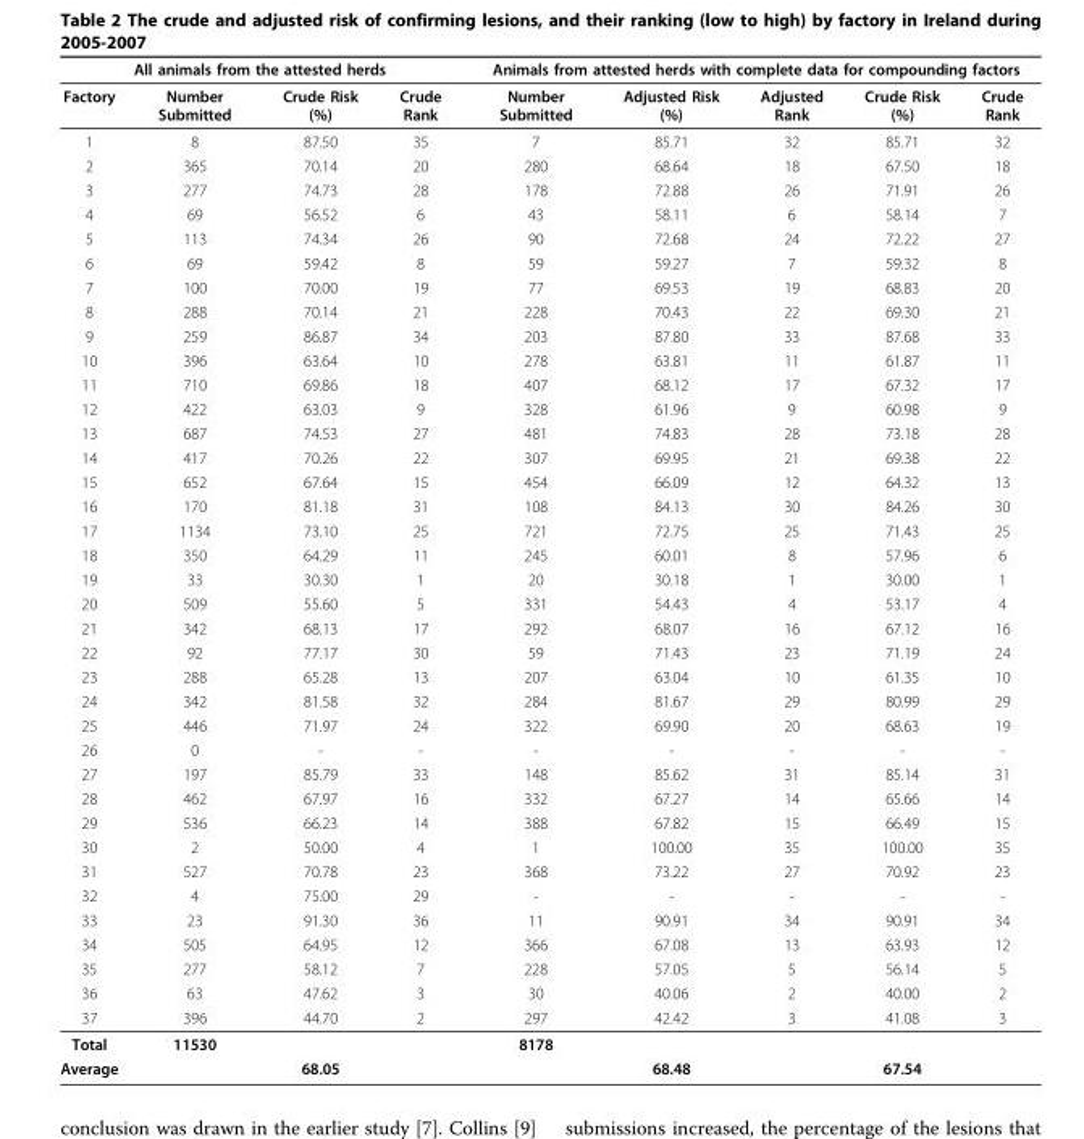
<table><thead><tr><td colspan="4">All animals from the attested herds</td><td colspan="5">Animals from attested herds with complete data for compounding factors</td></tr><tr><td>Factory</td><td>Number Submitted</td><td>Crude Risk (%)</td><td>Crude Rank</td><td>Number Submitted</td><td>Adjusted Risk (%)</td><td>Adjusted Rank</td><td>Crude Risk (%)</td><td>Crude Rank</td></tr></thead><tbody><tr><td>1</td><td>8</td><td>87.50</td><td>35</td><td>7</td><td>85.71</td><td>32</td><td>85.71</td><td>32</td></tr><tr><td>2</td><td>365</td><td>70.14</td><td>20</td><td>280</td><td>68.64</td><td>18</td><td>67.50</td><td>18</td></tr><tr><td>3</td><td>277</td><td>74.73</td><td>28</td><td>178</td><td>72.88</td><td>26</td><td>71.91</td><td>26</td></tr><tr><td>4</td><td>69</td><td>56.52</td><td>6</td><td>43</td><td>58.11</td><td>6</td><td>58.14</td><td>7</td></tr><tr><td>5</td><td>113</td><td>74.34</td><td>26</td><td>90</td><td>72.68</td><td>24</td><td>72.22</td><td>27</td></tr><tr><td>6</td><td>69</td><td>59.42</td><td>8</td><td>59</td><td>59.27</td><td>7</td><td>59.32</td><td>8</td></tr><tr><td>7</td><td>100</td><td>70.00</td><td>19</td><td>77</td><td>69.53</td><td>19</td><td>68.83</td><td>20</td></tr><tr><td>8</td><td>288</td><td>70.14</td><td>21</td><td>228</td><td>70.43</td><td>22</td><td>69.30</td><td>21</td></tr><tr><td>9</td><td>259</td><td>86.87</td><td>34</td><td>203</td><td>87.80</td><td>33</td><td>87.68</td><td>33</td></tr><tr><td>10</td><td>396</td><td>63.64</td><td>10</td><td>278</td><td>63.81</td><td>11</td><td>61.87</td><td>11</td></tr><tr><td>11</td><td>710</td><td>69.86</td><td>18</td><td>407</td><td>68.12</td><td>17</td><td>67.32</td><td>17</td></tr><tr><td>12</td><td>422</td><td>63.03</td><td>9</td><td>328</td><td>61.96</td><td>9</td><td>60.98</td><td>9</td></tr><tr><td>13</td><td>687</td><td>74.53</td><td>27</td><td>481</td><td>74.83</td><td>28</td><td>73.18</td><td>28</td></tr><tr><td>14</td><td>417</td><td>70.26</td><td>22</td><td>307</td><td>69.95</td><td>21</td><td>69.38</td><td>22</td></tr><tr><td>15</td><td>652</td><td>67.64</td><td>15</td><td>454</td><td>66.09</td><td>12</td><td>64.32</td><td>13</td></tr><tr><td>16</td><td>170</td><td>81.18</td><td>31</td><td>108</td><td>84.13</td><td>30</td><td>84.26</td><td>30</td></tr><tr><td>17</td><td>1134</td><td>73.10</td><td>25</td><td>721</td><td>72.75</td><td>25</td><td>71.43</td><td>25</td></tr><tr><td>18</td><td>350</td><td>64.29</td><td>11</td><td>245</td><td>60.01</td><td>8</td><td>57.96</td><td>6</td></tr><tr><td>19</td><td>33</td><td>30.30</td><td>1</td><td>20</td><td>30.18</td><td>1</td><td>30.00</td><td>1</td></tr><tr><td>20</td><td>509</td><td>55.60</td><td>5</td><td>331</td><td>54.43</td><td>4</td><td>53.17</td><td>4</td></tr><tr><td>21</td><td>342</td><td>68.13</td><td>17</td><td>292</td><td>68.07</td><td>16</td><td>67.12</td><td>16</td></tr><tr><td>22</td><td>92</td><td>77.17</td><td>30</td><td>59</td><td>71.43</td><td>23</td><td>71.19</td><td>24</td></tr><tr><td>23</td><td>288</td><td>65.28</td><td>13</td><td>207</td><td>63.04</td><td>10</td><td>61.35</td><td>10</td></tr><tr><td>24</td><td>342</td><td>81.58</td><td>32</td><td>284</td><td>81.67</td><td>29</td><td>80.99</td><td>29</td></tr><tr><td>25</td><td>446</td><td>71.97</td><td>24</td><td>322</td><td>69.90</td><td>20</td><td>68.63</td><td>19</td></tr><tr><td>26</td><td>0</td><td>-</td><td>-</td><td>-</td><td>-</td><td>-</td><td>-</td><td>-</td></tr><tr><td>27</td><td>197</td><td>85.79</td><td>33</td><td>148</td><td>85.62</td><td>31</td><td>85.14</td><td>31</td></tr><tr><td>28</td><td>462</td><td>67.97</td><td>16</td><td>332</td><td>67.27</td><td>14</td><td>65.66</td><td>14</td></tr><tr><td>29</td><td>536</td><td>66.23</td><td>14</td><td>388</td><td>67.82</td><td>15</td><td>66.49</td><td>15</td></tr><tr><td>30</td><td>2</td><td>50.00</td><td>4</td><td>1</td><td>100.00</td><td>35</td><td>100.00</td><td>35</td></tr><tr><td>31</td><td>527</td><td>70.78</td><td>23</td><td>368</td><td>73.22</td><td>27</td><td>70.92</td><td>23</td></tr><tr><td>32</td><td>4</td><td>75.00</td><td>29</td><td>-</td><td>-</td><td>-</td><td>-</td><td>-</td></tr><tr><td>33</td><td>23</td><td>91.30</td><td>36</td><td>11</td><td>90.91</td><td>34</td><td>90.91</td><td>34</td></tr><tr><td>34</td><td>505</td><td>64.95</td><td>12</td><td>366</td><td>67.08</td><td>13</td><td>63.93</td><td>12</td></tr><tr><td>35</td><td>277</td><td>58.12</td><td>7</td><td>228</td><td>57.05</td><td>5</td><td>56.14</td><td>5</td></tr><tr><td>36</td><td>63</td><td>47.62</td><td>3</td><td>30</td><td>40.06</td><td>2</td><td>40.00</td><td>2</td></tr><tr><td>37</td><td>396</td><td>44.70</td><td>2</td><td>297</td><td>42.42</td><td>3</td><td>41.08</td><td>3</td></tr><tr><td>Total</td><td>11530</td><td></td><td></td><td>8178</td><td></td><td></td><td></td><td></td></tr><tr><td>Average</td><td></td><td>68.05</td><td></td><td></td><td>68.48</td><td></td><td>67.54</td><td></td></tr></tbody></table>